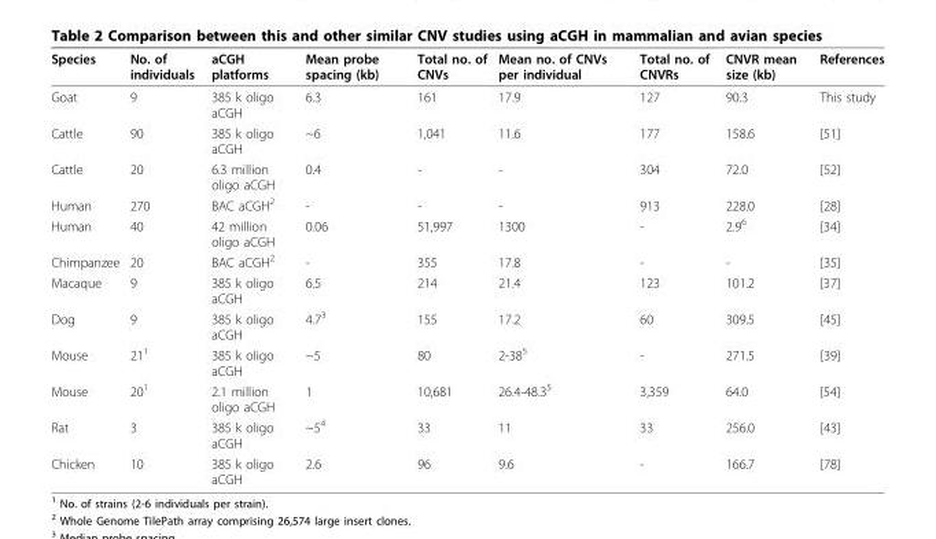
<table><thead><tr><td>Species</td><td>No. of individuals</td><td>aCGH platforms</td><td>Mean probe spacing (kb)</td><td>Total no. of CNVs</td><td>Mean no. of CNVs per individual</td><td>Total no. of CNVRs</td><td>CNVR mean size (kb)</td><td>References</td></tr></thead><tbody><tr><td>Goat</td><td>9</td><td>385 k oligo aCGH</td><td>6.3</td><td>161</td><td>17.9</td><td>127</td><td>90.3</td><td>This study</td></tr><tr><td>Cattle</td><td>90</td><td>385 k oligo aCGH</td><td>~6</td><td>1,041</td><td>11.6</td><td>177</td><td>158.6</td><td>[51]</td></tr><tr><td>Cattle</td><td>20</td><td>6.3 million oligo aCGH</td><td>0.4</td><td>-</td><td>-</td><td>304</td><td>72.0</td><td>[52]</td></tr><tr><td>Human</td><td>270</td><td>BAC aCGH<sup>2</sup></td><td>-</td><td>-</td><td>-</td><td>913</td><td>228.0</td><td>[28]</td></tr><tr><td>Human</td><td>40</td><td>42 million oligo aCGH</td><td>0.06</td><td>51,997</td><td>1300</td><td>-</td><td>2.9<sup>6</sup></td><td>[34]</td></tr><tr><td>Chimpanzee</td><td>20</td><td>BAC aCGH<sup>2</sup></td><td>-</td><td>355</td><td>17.8</td><td>-</td><td>-</td><td>[35]</td></tr><tr><td>Macaque</td><td>9</td><td>385 k oligo aCGH</td><td>6.5</td><td>214</td><td>21.4</td><td>123</td><td>101.2</td><td>[37]</td></tr><tr><td>Dog</td><td>9</td><td>385 k oligo aCGH</td><td>4.7<sup>3</sup></td><td>155</td><td>17.2</td><td>60</td><td>309.5</td><td>[45]</td></tr><tr><td>Mouse</td><td>21<sup>1</sup></td><td>385 k oligo aCGH</td><td>~5</td><td>80</td><td>2-38<sup>5</sup></td><td>-</td><td>271.5</td><td>[39]</td></tr><tr><td>Mouse</td><td>20<sup>1</sup></td><td>2.1 million oligo aCGH</td><td>1</td><td>10,681</td><td>26.4-48.3<sup>5</sup></td><td>3,359</td><td>64.0</td><td>[54]</td></tr><tr><td>Rat</td><td>3</td><td>385 k oligo aCGH</td><td>~5<sup>4</sup></td><td>33</td><td>11</td><td>33</td><td>256.0</td><td>[43]</td></tr><tr><td>Chicken</td><td>10</td><td>385 k oligo aCGH</td><td>2.6</td><td>96</td><td>9.6</td><td>-</td><td>166.7</td><td>[78]</td></tr></tbody></table>